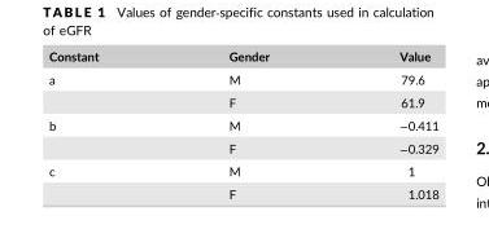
<table><thead><tr><td>Constant</td><td>Gender</td><td>Value</td></tr></thead><tbody><tr><td rowspan="2">a</td><td>M</td><td>79.6</td></tr><tr><td>F</td><td>61.9</td></tr><tr><td rowspan="2">b</td><td>M</td><td>−0.411</td></tr><tr><td>F</td><td>−0.329</td></tr><tr><td rowspan="2">c</td><td>M</td><td>1</td></tr><tr><td>F</td><td>1.018</td></tr></tbody></table>